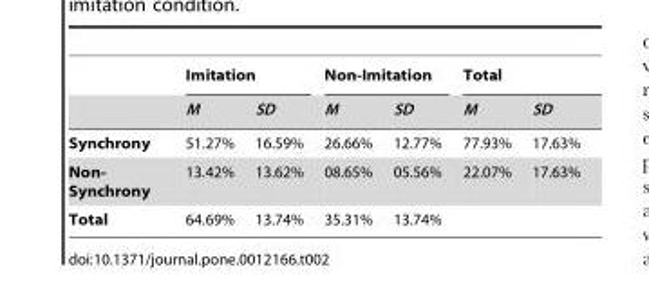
<table><thead><tr><td rowspan="2"></td><td colspan="2">Imitation</td><td colspan="2">Non-Imitation</td><td colspan="2">Total</td></tr><tr><td>M</td><td>SD</td><td>M</td><td>SD</td><td>M</td><td>SD</td></tr></thead><tbody><tr><td>Synchrony</td><td>51.27%</td><td>16.59%</td><td>26.66%</td><td>12.77%</td><td>77.93%</td><td>17.63%</td></tr><tr><td>Non- Synchrony</td><td>13.42%</td><td>13.62%</td><td>08.65%</td><td>05.56%</td><td>22.07%</td><td>17.63%</td></tr><tr><td>Total</td><td>64.69%</td><td>13.74%</td><td>35.31%</td><td>13.74%</td><td></td><td></td></tr></tbody></table>